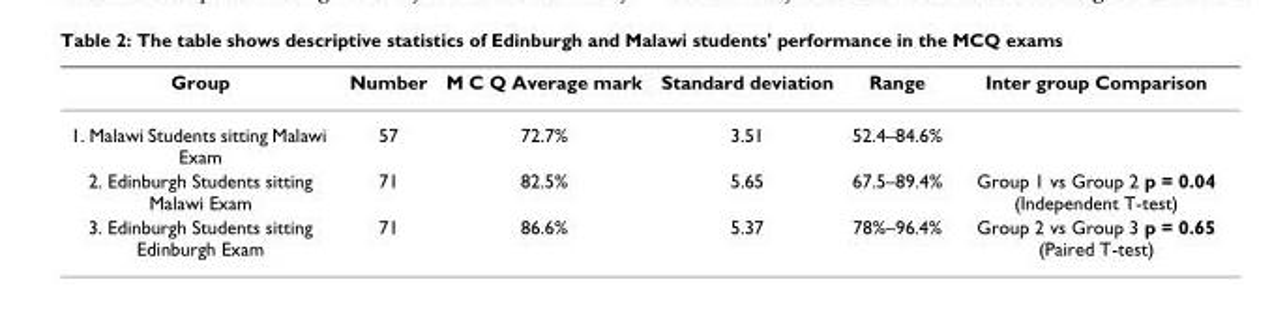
<table><thead><tr><td>Group</td><td>Number</td><td>M C Q Average mark</td><td>Standard deviation</td><td>Range</td><td>Inter group Comparison</td></tr></thead><tbody><tr><td>1. Malawi Students sitting Malawi Exam</td><td>57</td><td>72.7%</td><td>3.51</td><td>52.4–84.6%</td><td></td></tr><tr><td>2. Edinburgh Students sitting Malawi Exam</td><td>71</td><td>82.5%</td><td>5.65</td><td>67.5–89.4%</td><td>Group 1 vs Group 2 p = 0.04 (Independent T-test)</td></tr><tr><td>3. Edinburgh Students sitting Edinburgh Exam</td><td>71</td><td>86.6%</td><td>5.37</td><td>78%–96.4%</td><td>Group 2 vs Group 3 p = 0.65 (Paired T-test)</td></tr></tbody></table>